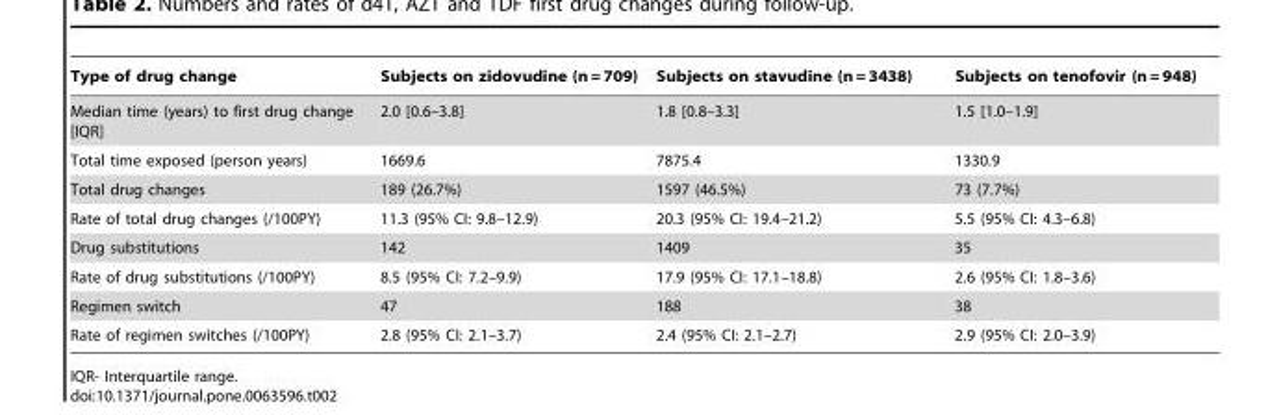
<table><thead><tr><td>Type of drug change</td><td>Subjects on zidovudine (n = 709)</td><td>Subjects on stavudine (n = 3438)</td><td>Subjects on tenofovir (n = 948)</td></tr></thead><tbody><tr><td>Median time (years) to first drug change [IQR]</td><td>2.0 [0.6–3.8]</td><td>1.8 [0.8–3.3]</td><td>1.5 [1.0–1.9]</td></tr><tr><td>Total time exposed (person years)</td><td>1669.6</td><td>7875.4</td><td>1330.9</td></tr><tr><td>Total drug changes</td><td>189 (26.7%)</td><td>1597 (46.5%)</td><td>73 (7.7%)</td></tr><tr><td>Rate of total drug changes (/100PY)</td><td>11.3 (95% CI: 9.8–12.9)</td><td>20.3 (95% CI: 19.4–21.2)</td><td>5.5 (95% CI: 4.3–6.8)</td></tr><tr><td>Drug substitutions</td><td>142</td><td>1409</td><td>35</td></tr><tr><td>Rate of drug substitutions (/100PY)</td><td>8.5 (95% CI: 7.2–9.9)</td><td>17.9 (95% CI: 17.1–18.8)</td><td>2.6 (95% CI: 1.8–3.6)</td></tr><tr><td>Regimen switch</td><td>47</td><td>188</td><td>38</td></tr><tr><td>Rate of regimen switches (/100PY)</td><td>2.8 (95% CI: 2.1–3.7)</td><td>2.4 (95% CI: 2.1–2.7)</td><td>2.9 (95% CI: 2.0–3.9)</td></tr></tbody></table>